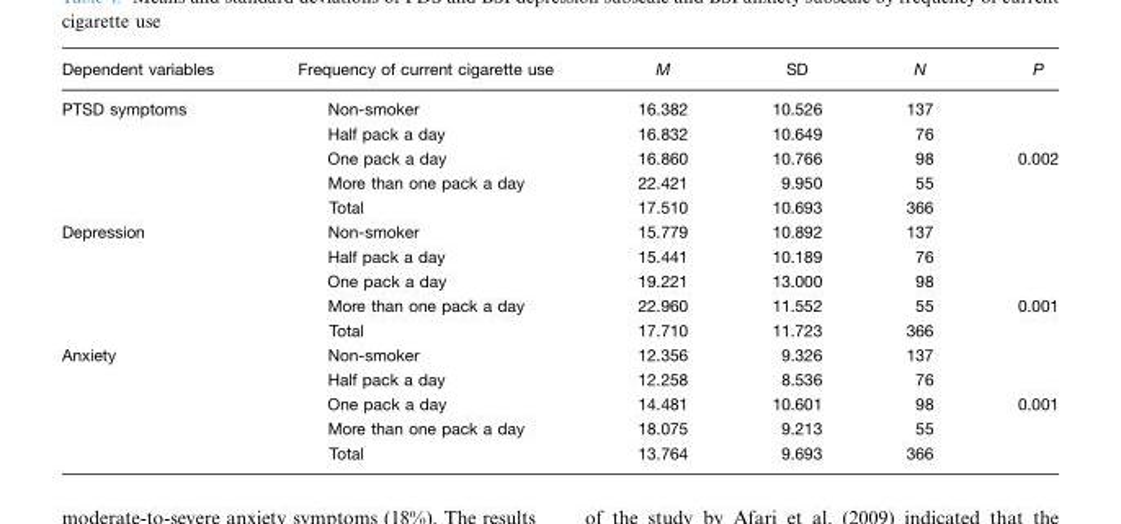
<table><thead><tr><td>Dependent variables</td><td>Frequency of current cigarette use</td><td>M</td><td>SD</td><td>N</td><td>P</td></tr></thead><tbody><tr><td rowspan="5">PTSD symptoms</td><td>Non-smoker</td><td>16.382</td><td>10.526</td><td>137</td><td></td></tr><tr><td>Half pack a day</td><td>16.832</td><td>10.649</td><td>76</td><td></td></tr><tr><td>One pack a day</td><td>16.860</td><td>10.766</td><td>98</td><td>0.002</td></tr><tr><td>More than one pack a day</td><td>22.421</td><td>9.950</td><td>55</td><td></td></tr><tr><td>Total</td><td>17.510</td><td>10.693</td><td>366</td><td></td></tr><tr><td rowspan="5">Depression</td><td>Non-smoker</td><td>15.779</td><td>10.892</td><td>137</td><td></td></tr><tr><td>Half pack a day</td><td>15.441</td><td>10.189</td><td>76</td><td></td></tr><tr><td>One pack a day</td><td>19.221</td><td>13.000</td><td>98</td><td></td></tr><tr><td>More than one pack a day</td><td>22.960</td><td>11.552</td><td>55</td><td>0.001</td></tr><tr><td>Total</td><td>17.710</td><td>11.723</td><td>366</td><td></td></tr><tr><td rowspan="5">Anxiety</td><td>Non-smoker</td><td>12.356</td><td>9.326</td><td>137</td><td></td></tr><tr><td>Half pack a day</td><td>12.258</td><td>8.536</td><td>76</td><td></td></tr><tr><td>One pack a day</td><td>14.481</td><td>10.601</td><td>98</td><td>0.001</td></tr><tr><td>More than one pack a day</td><td>18.075</td><td>9.213</td><td>55</td><td></td></tr><tr><td>Total</td><td>13.764</td><td>9.693</td><td>366</td><td></td></tr></tbody></table>